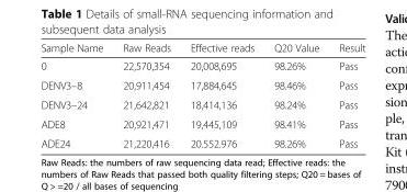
<table><thead><tr><td>Sample Name</td><td>Raw Reads</td><td>Effective reads</td><td>Q20 Value</td><td>Result</td></tr></thead><tbody><tr><td>0</td><td>22,570,354</td><td>20,008,695</td><td>98.26%</td><td>Pass</td></tr><tr><td>DENV3–8</td><td>20,911,454</td><td>17,884,645</td><td>98.46%</td><td>Pass</td></tr><tr><td>DENV3–24</td><td>21,642,821</td><td>18,414,136</td><td>98.24%</td><td>Pass</td></tr><tr><td>ADE8</td><td>20,921,471</td><td>19,445,109</td><td>98.41%</td><td>Pass</td></tr><tr><td>ADE24</td><td>21,220,416</td><td>20.552.976</td><td>98.26%</td><td>Pass</td></tr></tbody></table>